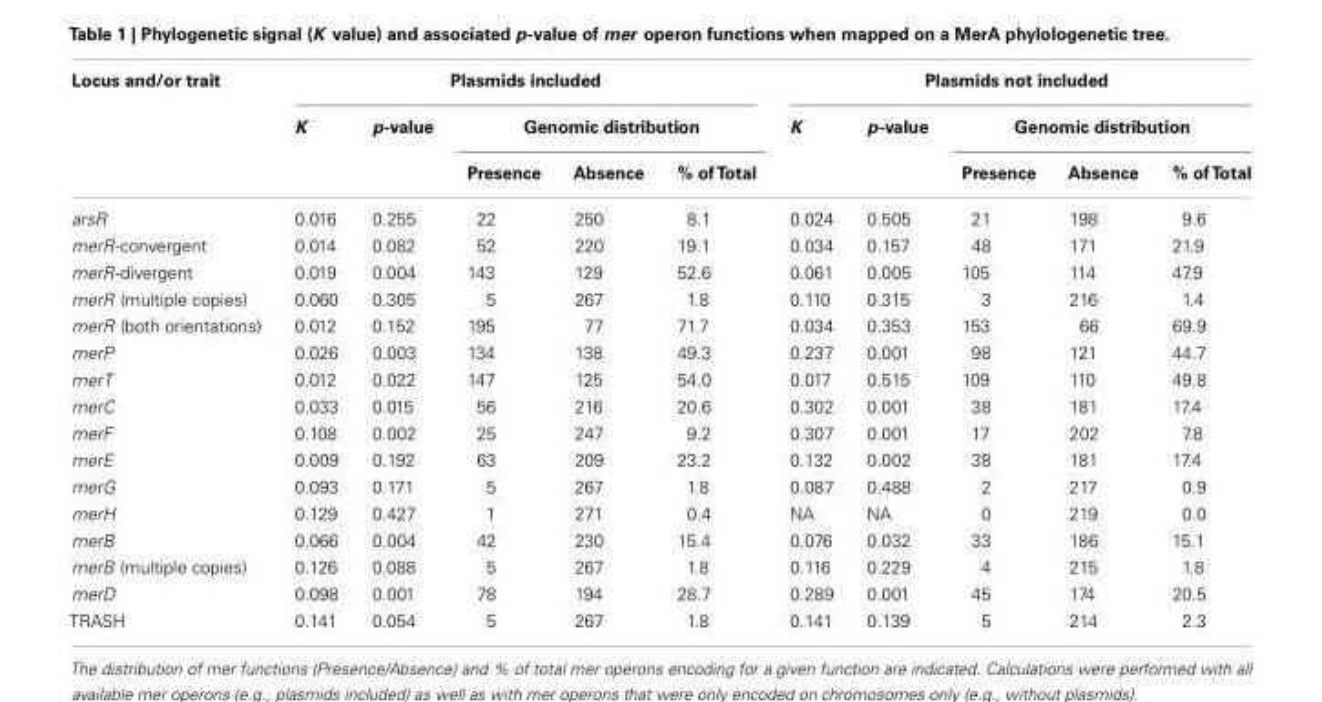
<table><thead><tr><td rowspan="3">Locus and/or trait</td><td colspan="5">Plasmids included</td><td colspan="5">Plasmids not included</td></tr><tr><td rowspan="2">K</td><td rowspan="2">p-value</td><td colspan="3">Genomic distribution</td><td rowspan="2">K</td><td rowspan="2">p-value</td><td colspan="3">Genomic distribution</td></tr><tr><td>Presence</td><td>Absence</td><td>% ofTotal</td><td>Presence</td><td>Absence</td><td>% ofTotal</td></tr></thead><tbody><tr><td>arsR</td><td>0.016</td><td>0.255</td><td>22</td><td>250</td><td>8.1</td><td>0.024</td><td>0.505</td><td>21</td><td>198</td><td>9.6</td></tr><tr><td>merR-convergent</td><td>0.014</td><td>0.082</td><td>52</td><td>220</td><td>19.1</td><td>0.034</td><td>0.157</td><td>48</td><td>171</td><td>21.9</td></tr><tr><td>merR-divergent</td><td>0.019</td><td>0.004</td><td>143</td><td>129</td><td>52.6</td><td>0.061</td><td>0.005</td><td>105</td><td>114</td><td>47.9</td></tr><tr><td>merR (multiple copies)</td><td>0.060</td><td>0.305</td><td>5</td><td>267</td><td>1.8</td><td>0.110</td><td>0.315</td><td>3</td><td>216</td><td>1.4</td></tr><tr><td>merR (both orientations)</td><td>0.012</td><td>0.152</td><td>195</td><td>77</td><td>71.7</td><td>0.034</td><td>0.353</td><td>153</td><td>66</td><td>69.9</td></tr><tr><td>merP</td><td>0.026</td><td>0.003</td><td>134</td><td>138</td><td>49.3</td><td>0.237</td><td>0.001</td><td>98</td><td>121</td><td>44.7</td></tr><tr><td>merT</td><td>0.012</td><td>0.022</td><td>147</td><td>125</td><td>54.0</td><td>0.017</td><td>0.515</td><td>109</td><td>110</td><td>49.8</td></tr><tr><td>merC</td><td>0.033</td><td>0.015</td><td>56</td><td>216</td><td>20.6</td><td>0.302</td><td>0.001</td><td>38</td><td>181</td><td>17.4</td></tr><tr><td>merF</td><td>0.108</td><td>0.002</td><td>25</td><td>247</td><td>9.2</td><td>0.307</td><td>0.001</td><td>17</td><td>202</td><td>7.8</td></tr><tr><td>merE</td><td>0.009</td><td>0.192</td><td>63</td><td>209</td><td>23.2</td><td>0.132</td><td>0.002</td><td>38</td><td>181</td><td>17.4</td></tr><tr><td>merG</td><td>0.093</td><td>0.171</td><td>5</td><td>267</td><td>1.8</td><td>0.087</td><td>0.488</td><td>2</td><td>217</td><td>0.9</td></tr><tr><td>merH</td><td>0.129</td><td>0.427</td><td>1</td><td>271</td><td>0.4</td><td>NA</td><td>NA</td><td>0</td><td>219</td><td>0.0</td></tr><tr><td>merB</td><td>0.066</td><td>0.004</td><td>42</td><td>230</td><td>15.4</td><td>0.076</td><td>0.032</td><td>33</td><td>186</td><td>15.1</td></tr><tr><td>merB (multiple copies)</td><td>0.126</td><td>0.088</td><td>5</td><td>267</td><td>1.8</td><td>0.116</td><td>0.229</td><td>4</td><td>215</td><td>1.8</td></tr><tr><td>merD</td><td>0.098</td><td>0.001</td><td>78</td><td>194</td><td>28.7</td><td>0.289</td><td>0.001</td><td>45</td><td>174</td><td>20.5</td></tr><tr><td>TRASH</td><td>0.141</td><td>0.054</td><td>5</td><td>267</td><td>1.8</td><td>0.141</td><td>0.139</td><td>5</td><td>214</td><td>2.3</td></tr></tbody></table>